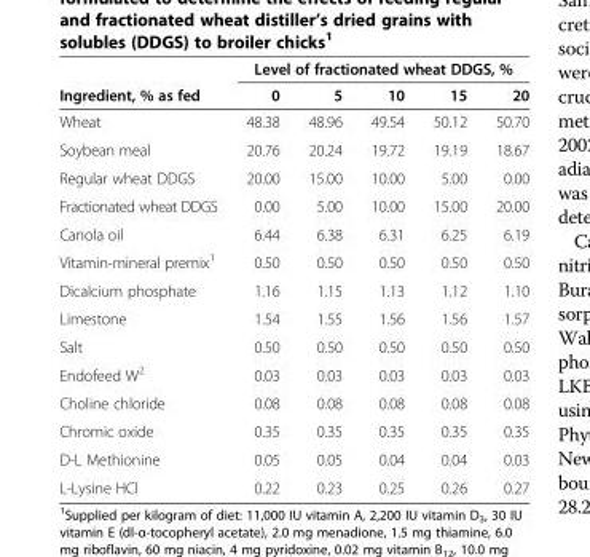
<table><thead><tr><td rowspan="2">Ingredient, % as fed</td><td colspan="5">Level of fractionated wheat DDGS, %</td></tr><tr><td>0</td><td>5</td><td>10</td><td>15</td><td>20</td></tr></thead><tbody><tr><td>Wheat</td><td>48.38</td><td>48.96</td><td>49.54</td><td>50.12</td><td>50.70</td></tr><tr><td>Soybean meal</td><td>20.76</td><td>20.24</td><td>19.72</td><td>19.19</td><td>18.67</td></tr><tr><td>Regular wheat DDGS</td><td>20.00</td><td>15.00</td><td>10.00</td><td>5.00</td><td>0.00</td></tr><tr><td>Fractionated wheat DDGS</td><td>0.00</td><td>5.00</td><td>10.00</td><td>15.00</td><td>20.00</td></tr><tr><td>Canola oil</td><td>6.44</td><td>6.38</td><td>6.31</td><td>6.25</td><td>6.19</td></tr><tr><td>Vitamin-mineral premix<sup>1</sup></td><td>0.50</td><td>0.50</td><td>0.50</td><td>0.50</td><td>0.50</td></tr><tr><td>Dicalcium phosphate</td><td>1.16</td><td>1.15</td><td>1.13</td><td>1.12</td><td>1.10</td></tr><tr><td>Limestone</td><td>1.54</td><td>1.55</td><td>1.56</td><td>1.56</td><td>1.57</td></tr><tr><td>Salt</td><td>0.50</td><td>0.50</td><td>0.50</td><td>0.50</td><td>0.50</td></tr><tr><td>Endofeed W<sup>2</sup></td><td>0.03</td><td>0.03</td><td>0.03</td><td>0.03</td><td>0.03</td></tr><tr><td>Choline chloride</td><td>0.08</td><td>0.08</td><td>0.08</td><td>0.08</td><td>0.08</td></tr><tr><td>Chromic oxide</td><td>0.35</td><td>0.35</td><td>0.35</td><td>0.35</td><td>0.35</td></tr><tr><td>D-L Methionine</td><td>0.05</td><td>0.05</td><td>0.04</td><td>0.04</td><td>0.03</td></tr><tr><td>L-Lysine HCl</td><td>0.22</td><td>0.23</td><td>0.25</td><td>0.26</td><td>0.27</td></tr></tbody></table>